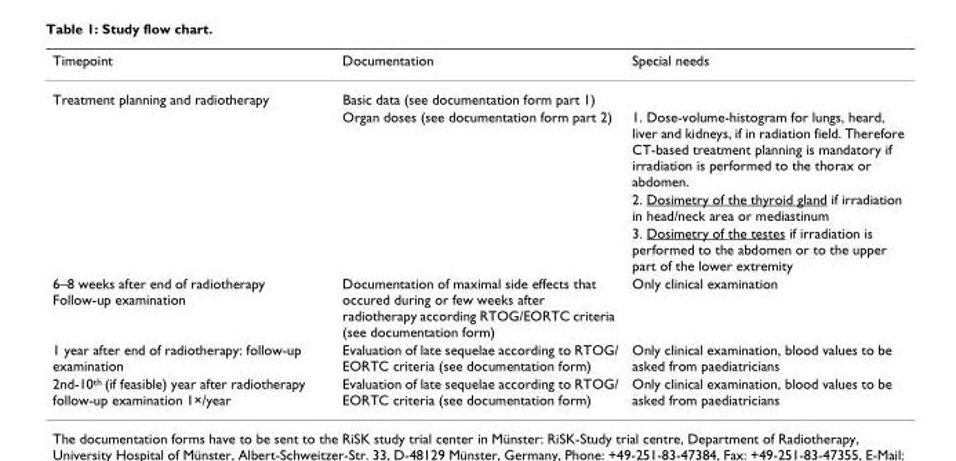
<table><thead><tr><td>Timepoint</td><td>Documentation</td><td>Special needs</td></tr></thead><tbody><tr><td rowspan="4">Treatment planning and radiotherapy</td><td>Basic data (see documentation form part 1)</td><td></td></tr><tr><td>Organ doses (see documentation form part 2)</td><td>1. Dose-volume-histogram for lungs, heard, liver and kidneys, if in radiation field. Therefore CT-based treatment planning is mandatory if irradiation is performed to the thorax or abdomen.</td></tr><tr><td></td><td>2. Dosimetry of the thyroid gland if irradiation in head/neck area or mediastinum</td></tr><tr><td></td><td>3. Dosimetry of the testes if irradiation is performed to the abdomen or to the upper part of the lower extremity</td></tr><tr><td>6–8 weeks after end of radiotherapy Follow-up examination</td><td>Documentation of maximal side effects that occured during or few weeks after radiotherapy according RTOG/EORTC criteria (see documentation form)</td><td>Only clinical examination</td></tr><tr><td>1 year after end of radiotherapy: follow-up examination</td><td>Evaluation of late sequelae according to RTOG/ EORTC criteria (see documentation form)</td><td>Only clinical examination, blood values to be asked from paediatricians</td></tr><tr><td>2nd-10<sup>th</sup> (if feasible) year after radiotherapy follow-up examination 1×/year</td><td>Evaluation of late sequelae according to RTOG/ EORTC criteria (see documentation form)</td><td>Only clinical examination, blood values to be asked from paediatricians</td></tr></tbody></table>